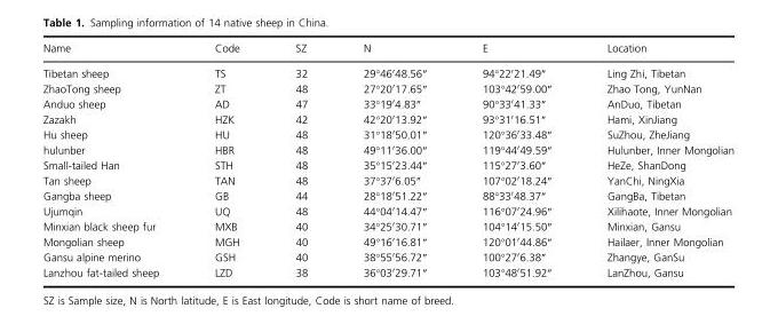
<table><thead><tr><td>Name</td><td>Code</td><td>SZ</td><td>N</td><td>E</td><td>Location</td></tr></thead><tbody><tr><td>Tibetan sheep</td><td>TS</td><td>32</td><td>29°46′48.56″</td><td>94°22′21.49″</td><td>Ling Zhi, Tibetan</td></tr><tr><td>ZhaoTong sheep</td><td>ZT</td><td>48</td><td>27°20′17.65″</td><td>103°42′59.00″</td><td>Zhao Tong, YunNan</td></tr><tr><td>Anduo sheep</td><td>AD</td><td>47</td><td>33°19′4.83″</td><td>90°33′41.33″</td><td>AnDuo, Tibetan</td></tr><tr><td>Zazakh</td><td>HZK</td><td>42</td><td>42°20′13.92″</td><td>93°31′16.51″</td><td>Hami, XinJiang</td></tr><tr><td>Hu sheep</td><td>HU</td><td>48</td><td>31°18′50.01″</td><td>120°36′33.48″</td><td>SuZhou, ZheJiang</td></tr><tr><td>hulunber</td><td>HBR</td><td>48</td><td>49°11′36.00″</td><td>119°44′49.59″</td><td>Hulunber, Inner Mongolian</td></tr><tr><td>Small-tailed Han</td><td>STH</td><td>48</td><td>35°15′23.44″</td><td>115°27′3.60″</td><td>HeZe, ShanDong</td></tr><tr><td>Tan sheep</td><td>TAN</td><td>48</td><td>37°37′6.05″</td><td>107°02′18.24″</td><td>YanChi, NingXia</td></tr><tr><td>Gangba sheep</td><td>GB</td><td>44</td><td>28°18′51.22″</td><td>88°33′48.37″</td><td>GangBa, Tibetan</td></tr><tr><td>Ujumqin</td><td>UQ</td><td>48</td><td>44°04′14.47″</td><td>116°07′24.96″</td><td>Xilihaote, Inner Mongolian</td></tr><tr><td>Minxian black sheep fur</td><td>MXB</td><td>40</td><td>34°25′30.71″</td><td>104°14′15.50″</td><td>Minxian, Gansu</td></tr><tr><td>Mongolian sheep</td><td>MGH</td><td>40</td><td>49°16′16.81″</td><td>120°01′44.86″</td><td>Hailaer, Inner Mongolian</td></tr><tr><td>Gansu alpine merino</td><td>GSH</td><td>40</td><td>38°55′56.72″</td><td>100°27′6.38″</td><td>Zhangye, GanSu</td></tr><tr><td>Lanzhou fat-tailed sheep</td><td>LZD</td><td>38</td><td>36°03′29.71″</td><td>103°48′51.92″</td><td>LanZhou, Gansu</td></tr></tbody></table>